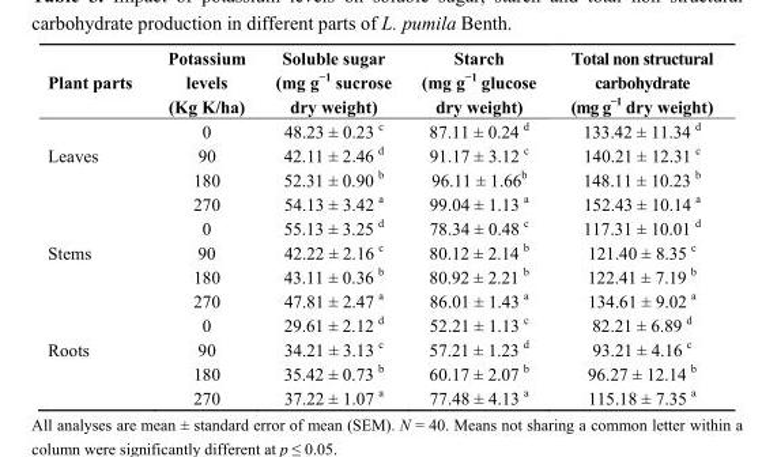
<table><thead><tr><td>Plant parts</td><td>Potassium levels (Kg K/ha)</td><td>Soluble sugar (mg g<sup>−1</sup> sucrose dry weight)</td><td>Starch (mg g<sup>−1</sup> glucose dry weight)</td><td>Total non structural carbohydrate (mg g<sup>−1</sup> dry weight)</td></tr></thead><tbody><tr><td></td><td>0</td><td>48.23 ± 0.23 <sup>c</sup></td><td>87.11 ± 0.24 <sup>d</sup></td><td>133.42 ± 11.34 <sup>d</sup></td></tr><tr><td rowspan="4">Leaves</td><td>90</td><td>42.11 ± 2.46 <sup>d</sup></td><td>91.17 ± 3.12 <sup>c</sup></td><td>140.21 ± 12.31 <sup>c</sup></td></tr><tr><td>180</td><td>52.31 ± 0.90 <sup>b</sup></td><td>96.11 ± 1.66<sup>b</sup></td><td>148.11 ± 10.23 <sup>b</sup></td></tr><tr><td>270</td><td>54.13 ± 3.42 <sup>a</sup></td><td>99.04 ± 1.13 <sup>a</sup></td><td>152.43 ± 10.14 <sup>a</sup></td></tr><tr><td>0</td><td>55.13 ± 3.25 <sup>d</sup></td><td>78.34 ± 0.48 <sup>c</sup></td><td>117.31 ± 10.01 <sup>d</sup></td></tr><tr><td rowspan="4">Stems</td><td>90</td><td>42.22 ± 2.16 <sup>c</sup></td><td>80.12 ± 2.14 <sup>b</sup></td><td>121.40 ± 8.35 <sup>c</sup></td></tr><tr><td>180</td><td>43.11 ± 0.36 <sup>b</sup></td><td>80.92 ± 2.21 <sup>b</sup></td><td>122.41 ± 7.19 <sup>b</sup></td></tr><tr><td>270</td><td>47.81 ± 2.47 <sup>a</sup></td><td>86.01 ± 1.43 <sup>a</sup></td><td>134.61 ± 9.02 <sup>a</sup></td></tr><tr><td>0</td><td>29.61 ± 2.12 <sup>d</sup></td><td>52.21 ± 1.13 <sup>c</sup></td><td>82.21 ± 6.89 <sup>d</sup></td></tr><tr><td rowspan="3">Roots</td><td>90</td><td>34.21 ± 3.13 <sup>c</sup></td><td>57.21 ± 1.23 <sup>d</sup></td><td>93.21 ± 4.16 <sup>c</sup></td></tr><tr><td>180</td><td>35.42 ± 0.73 <sup>b</sup></td><td>60.17 ± 2.07 <sup>b</sup></td><td>96.27 ± 12.14 <sup>b</sup></td></tr><tr><td>270</td><td>37.22 ± 1.07 <sup>a</sup></td><td>77.48 ± 4.13 <sup>a</sup></td><td>115.18 ± 7.35 <sup>a</sup></td></tr></tbody></table>